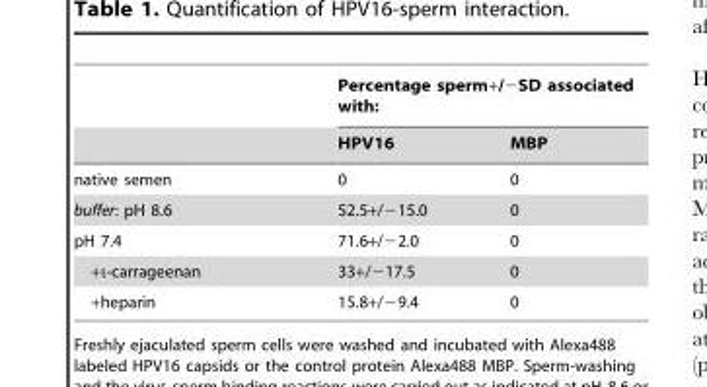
<table><thead><tr><td rowspan="2"></td><td colspan="2">Percentage sperm+/−SD associated with:</td></tr><tr><td>HPV16</td><td>MBP</td></tr></thead><tbody><tr><td>native semen</td><td>0</td><td>0</td></tr><tr><td>buffer: pH 8.6</td><td>52.5+/−15.0</td><td>0</td></tr><tr><td>pH 7.4</td><td>71.6+/−2.0</td><td>0</td></tr><tr><td>+ι-carrageenan</td><td>33+/−17.5</td><td>0</td></tr><tr><td>+heparin</td><td>15.8+/−9.4</td><td>0</td></tr></tbody></table>